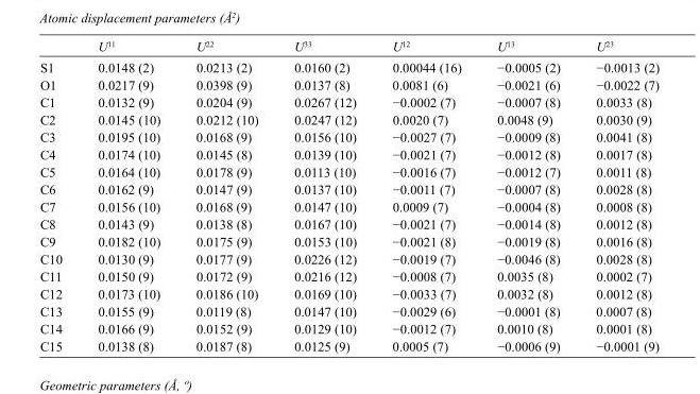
<table><thead><tr><td></td><td>U<sup>11</sup></td><td>U<sup>22</sup></td><td>U<sup>33</sup></td><td>U<sup>12</sup></td><td>U<sup>13</sup></td><td>U<sup>23</sup></td></tr></thead><tbody><tr><td>S1</td><td>0.0148 (2)</td><td>0.0213 (2)</td><td>0.0160 (2)</td><td>0.00044 (16)</td><td>−0.0005 (2)</td><td>−0.0013 (2)</td></tr><tr><td>O1</td><td>0.0217 (9)</td><td>0.0398 (9)</td><td>0.0137 (8)</td><td>0.0081 (6)</td><td>−0.0021 (6)</td><td>−0.0022 (7)</td></tr><tr><td>C1</td><td>0.0132 (9)</td><td>0.0204 (9)</td><td>0.0267 (12)</td><td>−0.0002 (7)</td><td>−0.0007 (8)</td><td>0.0033 (8)</td></tr><tr><td>C2</td><td>0.0145 (10)</td><td>0.0212 (10)</td><td>0.0247 (12)</td><td>0.0020 (7)</td><td>0.0048 (9)</td><td>0.0030 (9)</td></tr><tr><td>C3</td><td>0.0195 (10)</td><td>0.0168 (9)</td><td>0.0156 (10)</td><td>−0.0027 (7)</td><td>−0.0009 (8)</td><td>0.0041 (8)</td></tr><tr><td>C4</td><td>0.0174 (10)</td><td>0.0145 (8)</td><td>0.0139 (10)</td><td>−0.0021 (7)</td><td>−0.0012 (8)</td><td>0.0017 (8)</td></tr><tr><td>C5</td><td>0.0164 (10)</td><td>0.0178 (9)</td><td>0.0113 (10)</td><td>−0.0016 (7)</td><td>−0.0012 (7)</td><td>0.0011 (8)</td></tr><tr><td>C6</td><td>0.0162 (9)</td><td>0.0147 (9)</td><td>0.0137 (10)</td><td>−0.0011 (7)</td><td>−0.0007 (8)</td><td>0.0028 (8)</td></tr><tr><td>C7</td><td>0.0156 (10)</td><td>0.0168 (9)</td><td>0.0147 (10)</td><td>0.0009 (7)</td><td>−0.0004 (8)</td><td>0.0008 (8)</td></tr><tr><td>C8</td><td>0.0143 (9)</td><td>0.0138 (8)</td><td>0.0167 (10)</td><td>−0.0021 (7)</td><td>−0.0014 (8)</td><td>0.0012 (8)</td></tr><tr><td>C9</td><td>0.0182 (10)</td><td>0.0175 (9)</td><td>0.0153 (10)</td><td>−0.0021 (8)</td><td>−0.0019 (8)</td><td>0.0016 (8)</td></tr><tr><td>C10</td><td>0.0130 (9)</td><td>0.0177 (9)</td><td>0.0226 (12)</td><td>−0.0019 (7)</td><td>−0.0046 (8)</td><td>0.0028 (8)</td></tr><tr><td>C11</td><td>0.0150 (9)</td><td>0.0172 (9)</td><td>0.0216 (12)</td><td>−0.0008 (7)</td><td>0.0035 (8)</td><td>0.0002 (7)</td></tr><tr><td>C12</td><td>0.0173 (10)</td><td>0.0186 (10)</td><td>0.0169 (10)</td><td>−0.0033 (7)</td><td>0.0032 (8)</td><td>0.0012 (8)</td></tr><tr><td>C13</td><td>0.0155 (9)</td><td>0.0119 (8)</td><td>0.0147 (10)</td><td>−0.0029 (6)</td><td>−0.0001 (8)</td><td>0.0007 (8)</td></tr><tr><td>C14</td><td>0.0166 (9)</td><td>0.0152 (9)</td><td>0.0129 (10)</td><td>−0.0012 (7)</td><td>0.0010 (8)</td><td>0.0001 (8)</td></tr><tr><td>C15</td><td>0.0138 (8)</td><td>0.0187 (8)</td><td>0.0125 (9)</td><td>0.0005 (7)</td><td>−0.0006 (9)</td><td>−0.0001 (9)</td></tr></tbody></table>